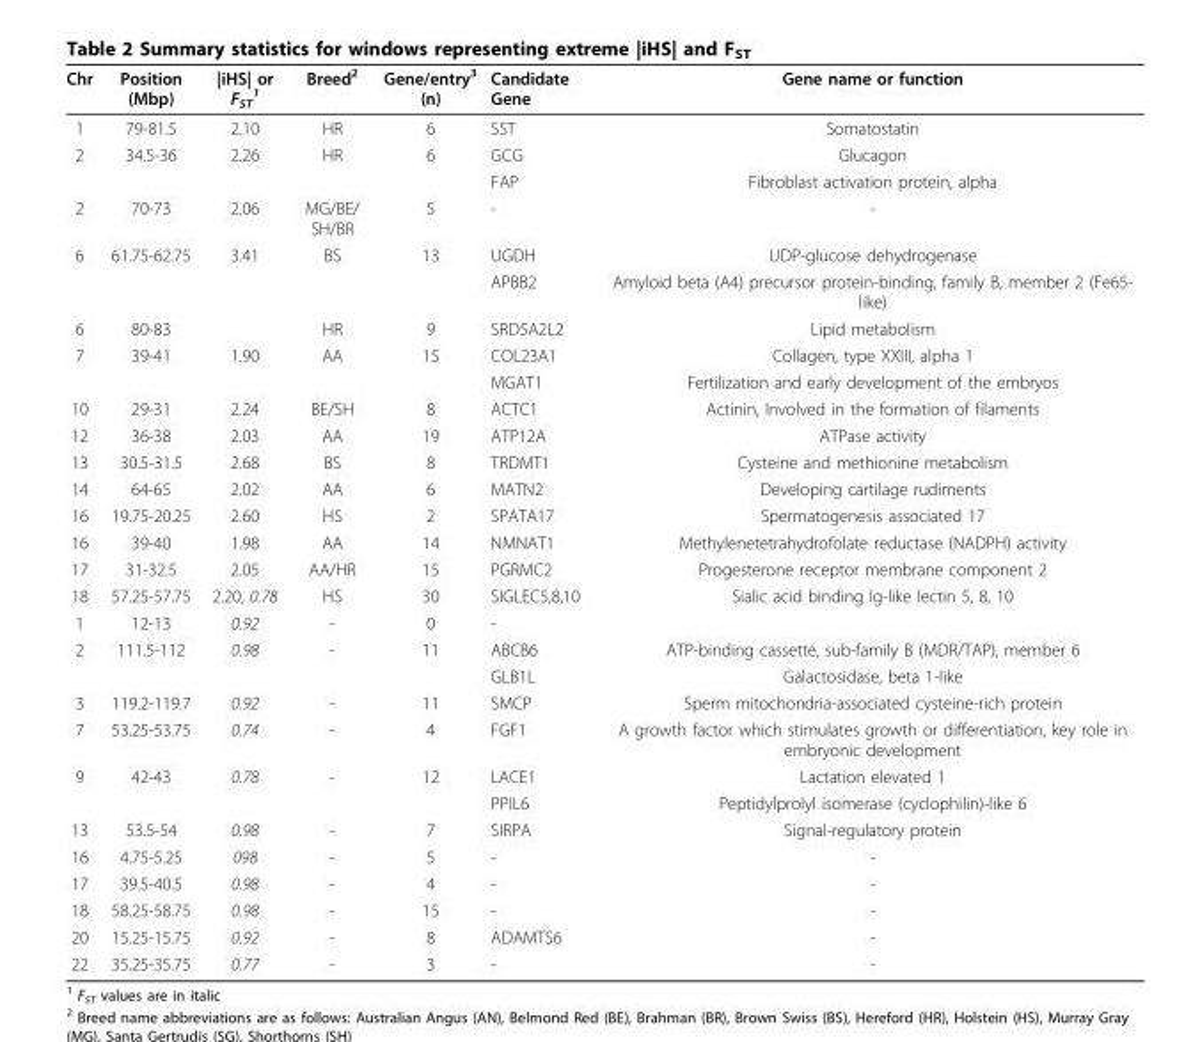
<table><thead><tr><td>Chr</td><td>Position (Mbp)</td><td>|iHS| or F<sub>ST</sub> <sup>1</sup></td><td>Breed<sup>2</sup></td><td>Gene/entry<sup>3</sup> (n)</td><td>Candidate Gene</td><td>Gene name or function</td></tr></thead><tbody><tr><td>1</td><td>79-81.5</td><td>2.10</td><td>HR</td><td>6</td><td>SST</td><td>Somatostatin</td></tr><tr><td rowspan="2">2</td><td>34.5-36</td><td>2.26</td><td>HR</td><td>6</td><td>GCG</td><td>Glucagon</td></tr><tr><td></td><td></td><td></td><td></td><td>FAP</td><td>Fibroblast activation protein, alpha</td></tr><tr><td>2</td><td>70-73</td><td>2.06</td><td>MG/BE/ SH/BR</td><td>5</td><td>-</td><td>-</td></tr><tr><td rowspan="2">6</td><td>61.75-62.75</td><td>3.41</td><td>BS</td><td>13</td><td>UGDH</td><td>UDP-glucose dehydrogenase</td></tr><tr><td></td><td></td><td></td><td></td><td>APBB2</td><td>Amyloid beta (A4) precursor protein-binding, family B, member 2 (Fe65- like)</td></tr><tr><td>6</td><td>80-83</td><td></td><td>HR</td><td>9</td><td>SRD5A2L2</td><td>Lipid metabolism</td></tr><tr><td rowspan="2">7</td><td>39-41</td><td>1.90</td><td>AA</td><td>15</td><td>COL23A1</td><td>Collagen, type XXIII, alpha 1</td></tr><tr><td></td><td></td><td></td><td></td><td>MGAT1</td><td>Fertilization and early development of the embryos</td></tr><tr><td>10</td><td>29-31</td><td>2.24</td><td>BE/SH</td><td>8</td><td>ACTC1</td><td>Actinin, Involved in the formation of filaments</td></tr><tr><td>12</td><td>36-38</td><td>2.03</td><td>AA</td><td>19</td><td>ATP12A</td><td>ATPase activity</td></tr><tr><td>13</td><td>30.5-31.5</td><td>2.68</td><td>BS</td><td>8</td><td>TRDMT1</td><td>Cysteine and methionine metabolism</td></tr><tr><td>14</td><td>64-65</td><td>2.02</td><td>AA</td><td>6</td><td>MATN2</td><td>Developing cartilage rudiments</td></tr><tr><td>16</td><td>19.75-20.25</td><td>2.60</td><td>HS</td><td>2</td><td>SPATA17</td><td>Spermatogenesis associated 17</td></tr><tr><td>16</td><td>39-40</td><td>1.98</td><td>AA</td><td>14</td><td>NMNAT1</td><td>Methylenetetrahydrofolate reductase (NADPH) activity</td></tr><tr><td>17</td><td>31-32.5</td><td>2.05</td><td>AA/HR</td><td>15</td><td>PGRMC2</td><td>Progesterone receptor membrane component 2</td></tr><tr><td>18</td><td>57.25-57.75</td><td>2.20, 0.78</td><td>HS</td><td>30</td><td>SIGLEC5,8,10</td><td>Sialic acid binding Ig-like lectin 5, 8, 10</td></tr><tr><td>1</td><td>12-13</td><td>0.92</td><td>-</td><td>0</td><td>-</td><td></td></tr><tr><td rowspan="2">2</td><td>111.5-112</td><td>0.98</td><td>-</td><td>11</td><td>ABCB6</td><td>ATP-binding cassette, sub-family B (MDR/TAP), member 6</td></tr><tr><td></td><td></td><td></td><td></td><td>GLB1L</td><td>Galactosidase, beta 1-like</td></tr><tr><td>3</td><td>119.2-119.7</td><td>0.92</td><td>-</td><td>11</td><td>SMCP</td><td>Sperm mitochondria-associated cysteine-rich protein</td></tr><tr><td>7</td><td>53.25-53.75</td><td>0.74</td><td>-</td><td>4</td><td>FGF1</td><td>A growth factor which stimulates growth or differentiation, key role in embryonic development</td></tr><tr><td rowspan="2">9</td><td>42-43</td><td>0.78</td><td>-</td><td>12</td><td>LACE1</td><td>Lactation elevated 1</td></tr><tr><td></td><td></td><td></td><td></td><td>PPIL6</td><td>Peptidylprolyl isomerase (cyclophilin)-like 6</td></tr><tr><td>13</td><td>53.5-54</td><td>0.98</td><td>-</td><td>7</td><td>SIRPA</td><td>Signal-regulatory protein</td></tr><tr><td>16</td><td>4.75-5.25</td><td>098</td><td>-</td><td>5</td><td>-</td><td>-</td></tr><tr><td>17</td><td>39.5-40.5</td><td>0.98</td><td>-</td><td>4</td><td>-</td><td>-</td></tr><tr><td>18</td><td>58.25-58.75</td><td>0.98</td><td>-</td><td>15</td><td>-</td><td>-</td></tr><tr><td>20</td><td>15.25-15.75</td><td>0.92</td><td>-</td><td>8</td><td>ADAMTS6</td><td>-</td></tr><tr><td>22</td><td>35.25-35.75</td><td>0.77</td><td>-</td><td>3</td><td>-</td><td>-</td></tr></tbody></table>